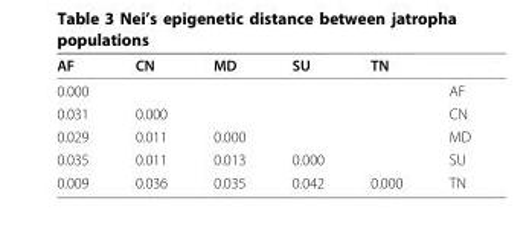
<table><thead><tr><td>AF</td><td>CN</td><td>MD</td><td>SU</td><td>TN</td><td></td></tr></thead><tbody><tr><td>0.000</td><td></td><td></td><td></td><td></td><td>AF</td></tr><tr><td>0.031</td><td>0.000</td><td></td><td></td><td></td><td>CN</td></tr><tr><td>0.029</td><td>0.011</td><td>0.000</td><td></td><td></td><td>MD</td></tr><tr><td>0.035</td><td>0.011</td><td>0.013</td><td>0.000</td><td></td><td>SU</td></tr><tr><td>0.009</td><td>0.036</td><td>0.035</td><td>0.042</td><td>0.000</td><td>TN</td></tr></tbody></table>